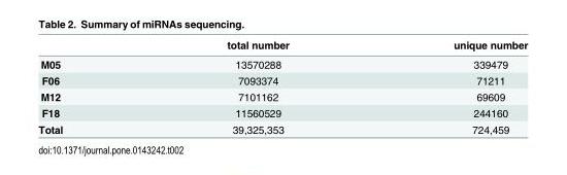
<table><thead><tr><td></td><td>total number</td><td>unique number</td></tr></thead><tbody><tr><td>M05</td><td>13570288</td><td>339479</td></tr><tr><td>F06</td><td>7093374</td><td>71211</td></tr><tr><td>M12</td><td>7101162</td><td>69609</td></tr><tr><td>F18</td><td>11560529</td><td>244160</td></tr><tr><td>Total</td><td>39,325,353</td><td>724,459</td></tr></tbody></table>